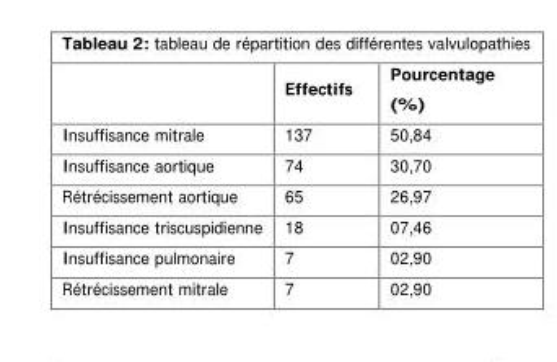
<table><thead><tr><td></td><td>Effectifs</td><td>Pourcentage (%)</td></tr></thead><tbody><tr><td>Insuffisance mitrale</td><td>137</td><td>50,84</td></tr><tr><td>Insuffisance aortique</td><td>74</td><td>30,70</td></tr><tr><td>Rétrécissement aortique</td><td>65</td><td>26,97</td></tr><tr><td>Insuffisance triscuspidienne</td><td>18</td><td>07,46</td></tr><tr><td>Insuffisance pulmonaire</td><td>7</td><td>02,90</td></tr><tr><td>Rétrécissement mitrale</td><td>7</td><td>02,90</td></tr></tbody></table>